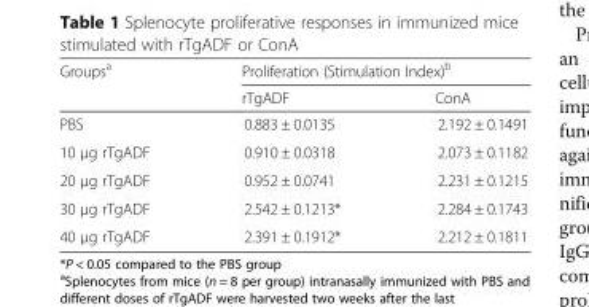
<table><thead><tr><td rowspan="2">Groups<sup>a</sup></td><td colspan="2">Proliferation (Stimulation Index)<sup>b</sup></td></tr><tr><td>rTgADF</td><td>ConA</td></tr></thead><tbody><tr><td>PBS</td><td>0.883 ± 0.0135</td><td>2.192 ± 0.1491</td></tr><tr><td>10 μg rTgADF</td><td>0.910 ± 0.0318</td><td>2.073 ± 0.1182</td></tr><tr><td>20 μg rTgADF</td><td>0.952 ± 0.0741</td><td>2.231 ± 0.1215</td></tr><tr><td>30 μg rTgADF</td><td>2.542 ± 0.1213*</td><td>2.284 ± 0.1743</td></tr><tr><td>40 μg rTgADF</td><td>2.391 ± 0.1912*</td><td>2.212 ± 0.1811</td></tr></tbody></table>